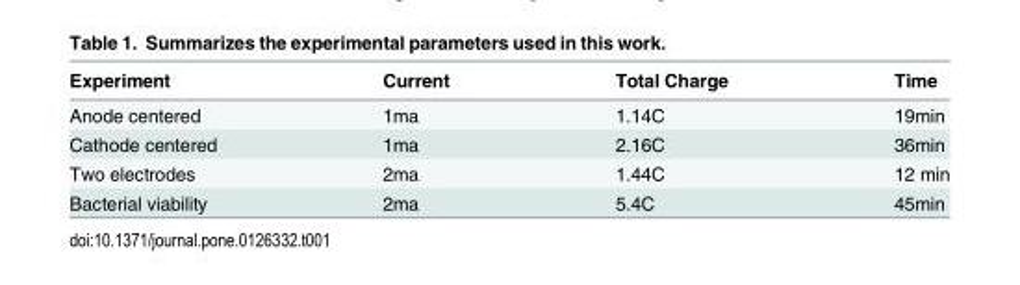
<table><thead><tr><td>Experiment</td><td>Current</td><td>Total Charge</td><td>Time</td></tr></thead><tbody><tr><td>Anode centered</td><td>1ma</td><td>1.14C</td><td>19min</td></tr><tr><td>Cathode centered</td><td>1ma</td><td>2.16C</td><td>36min</td></tr><tr><td>Two electrodes</td><td>2ma</td><td>1.44C</td><td>12 min</td></tr><tr><td>Bacterial viability</td><td>2ma</td><td>5.4C</td><td>45min</td></tr></tbody></table>